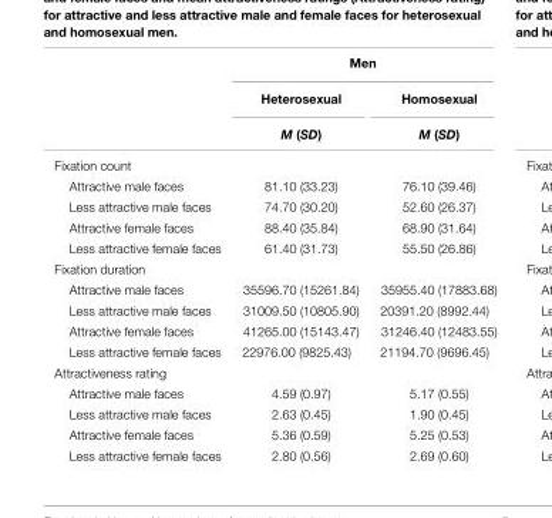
<table><thead><tr><td rowspan="3"></td><td colspan="2">Men</td></tr><tr><td rowspan="2">Heterosexual M (SD)</td><td rowspan="2">Homosexual M (SD)</td></tr><tr></tr></thead><tbody><tr><td colspan="3">Fixation count</td></tr><tr><td>Attractive male faces</td><td>81.10 (33.23)</td><td>76.10 (39.46)</td></tr><tr><td>Less attractive male faces</td><td>74.70 (30.20)</td><td>52.60 (26.37)</td></tr><tr><td>Attractive female faces</td><td>88.40 (35.84)</td><td>68.90 (31.64)</td></tr><tr><td>Less attractive female faces</td><td>61.40 (31.73)</td><td>55.50 (26.86)</td></tr><tr><td colspan="3">Fixation duration</td></tr><tr><td>Attractive male faces</td><td>35596.70 (15261.84)</td><td>35955.40 (17883.68)</td></tr><tr><td>Less attractive male faces</td><td>31009.50 (10805.90)</td><td>20391.20 (8992.44)</td></tr><tr><td>Attractive female faces</td><td>41265.00 (15143.47)</td><td>31246.40 (12483.55)</td></tr><tr><td>Less attractive female faces</td><td>22976.00 (9825.43)</td><td>21194.70 (9696.45)</td></tr><tr><td colspan="3">Attractiveness rating</td></tr><tr><td>Attractive male faces</td><td>4.59 (0.97)</td><td>5.17 (0.55)</td></tr><tr><td>Less attractive male faces</td><td>2.63 (0.45)</td><td>1.90 (0.45)</td></tr><tr><td>Attractive female faces</td><td>5.36 (0.59)</td><td>5.25 (0.53)</td></tr><tr><td>Less attractive female faces</td><td>2.80 (0.56)</td><td>2.69 (0.60)</td></tr></tbody></table>